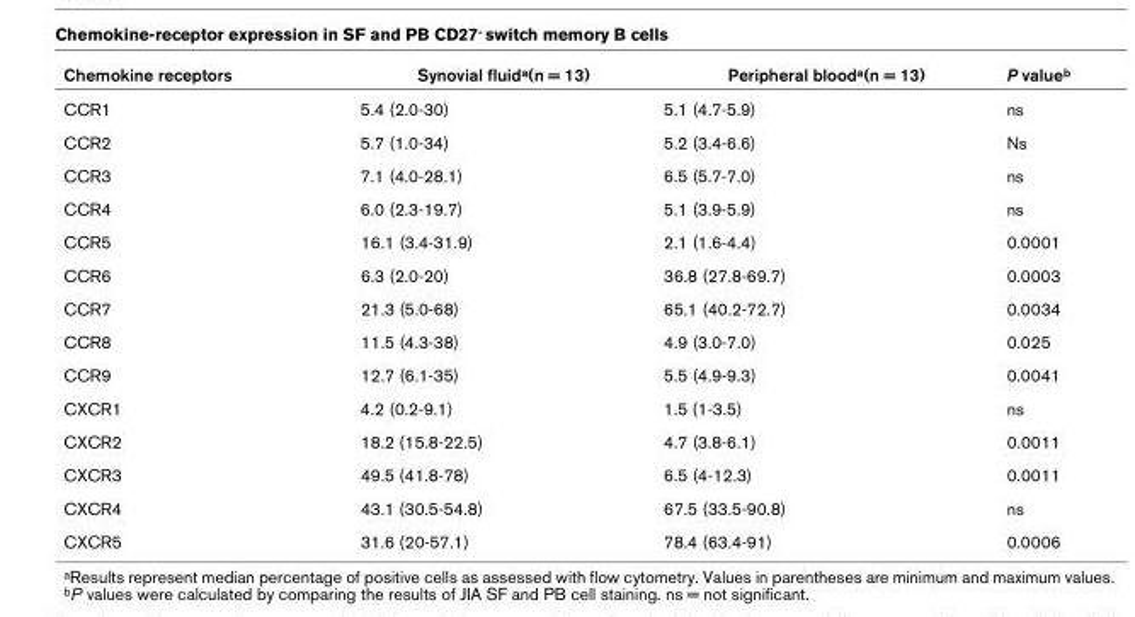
<table><thead><tr><td>Chemokine receptors</td><td>Synovial fluid<sup>a</sup>(n = 13)</td><td>Peripheral blood<sup>a</sup>(n = 13)</td><td>P value<sup>b</sup></td></tr></thead><tbody><tr><td>CCR1</td><td>5.4 (2.0-30)</td><td>5.1 (4.7-5.9)</td><td>ns</td></tr><tr><td>CCR2</td><td>5.7 (1.0-34)</td><td>5.2 (3.4-6.6)</td><td>Ns</td></tr><tr><td>CCR3</td><td>7.1 (4.0-28.1)</td><td>6.5 (5.7-7.0)</td><td>ns</td></tr><tr><td>CCR4</td><td>6.0 (2.3-19.7)</td><td>5.1 (3.9-5.9)</td><td>ns</td></tr><tr><td>CCR5</td><td>16.1 (3.4-31.9)</td><td>2.1 (1.6-4.4)</td><td>0.0001</td></tr><tr><td>CCR6</td><td>6.3 (2.0-20)</td><td>36.8 (27.8-69.7)</td><td>0.0003</td></tr><tr><td>CCR7</td><td>21.3 (5.0-68)</td><td>65.1 (40.2-72.7)</td><td>0.0034</td></tr><tr><td>CCR8</td><td>11.5 (4.3-38)</td><td>4.9 (3.0-7.0)</td><td>0.025</td></tr><tr><td>CCR9</td><td>12.7 (6.1-35)</td><td>5.5 (4.9-9.3)</td><td>0.0041</td></tr><tr><td>CXCR1</td><td>4.2 (0.2-9.1)</td><td>1.5 (1-3.5)</td><td>ns</td></tr><tr><td>CXCR2</td><td>18.2 (15.8-22.5)</td><td>4.7 (3.8-6.1)</td><td>0.0011</td></tr><tr><td>CXCR3</td><td>49.5 (41.8-78)</td><td>6.5 (4-12.3)</td><td>0.0011</td></tr><tr><td>CXCR4</td><td>43.1 (30.5-54.8)</td><td>67.5 (33.5-90.8)</td><td>ns</td></tr><tr><td>CXCR5</td><td>31.6 (20-57.1)</td><td>78.4 (63.4-91)</td><td>0.0006</td></tr></tbody></table>